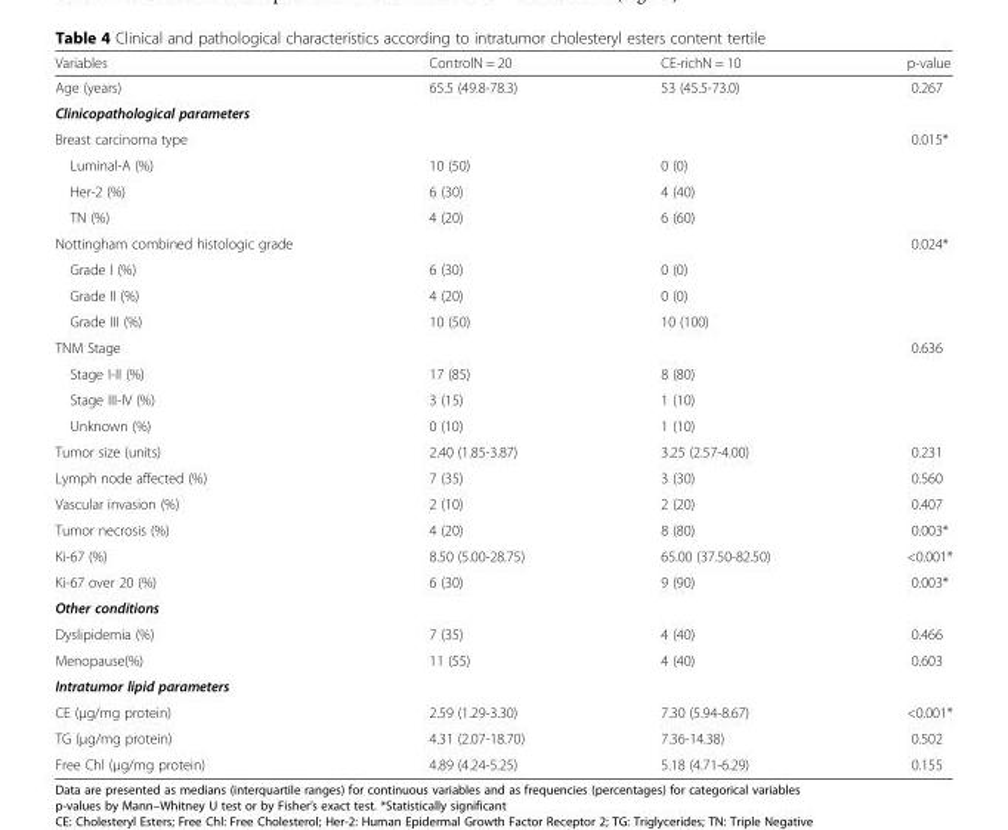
<table><thead><tr><td>Variables</td><td>ControlN = 20</td><td>CE-richN = 10</td><td>p-value</td></tr></thead><tbody><tr><td>Age (years)</td><td>65.5 (49.8-78.3)</td><td>53 (45.5-73.0)</td><td>0.267</td></tr><tr><td colspan="4">Clinicopathological parameters</td></tr><tr><td>Breast carcinoma type</td><td></td><td></td><td>0.015*</td></tr><tr><td>Luminal-A (%)</td><td>10 (50)</td><td>0 (0)</td><td></td></tr><tr><td>Her-2 (%)</td><td>6 (30)</td><td>4 (40)</td><td></td></tr><tr><td>TN (%)</td><td>4 (20)</td><td>6 (60)</td><td></td></tr><tr><td>Nottingham combined histologic grade</td><td></td><td></td><td>0.024*</td></tr><tr><td>Grade I (%)</td><td>6 (30)</td><td>0 (0)</td><td></td></tr><tr><td>Grade II (%)</td><td>4 (20)</td><td>0 (0)</td><td></td></tr><tr><td>Grade III (%)</td><td>10 (50)</td><td>10 (100)</td><td></td></tr><tr><td>TNM Stage</td><td></td><td></td><td>0.636</td></tr><tr><td>Stage I-II (%)</td><td>17 (85)</td><td>8 (80)</td><td></td></tr><tr><td>Stage III-IV (%)</td><td>3 (15)</td><td>1 (10)</td><td></td></tr><tr><td>Unknown (%)</td><td>0 (10)</td><td>1 (10)</td><td></td></tr><tr><td>Tumor size (units)</td><td>2.40 (1.85-3.87)</td><td>3.25 (2.57-4.00)</td><td>0.231</td></tr><tr><td>Lymph node affected (%)</td><td>7 (35)</td><td>3 (30)</td><td>0.560</td></tr><tr><td>Vascular invasion (%)</td><td>2 (10)</td><td>2 (20)</td><td>0.407</td></tr><tr><td>Tumor necrosis (%)</td><td>4 (20)</td><td>8 (80)</td><td>0.003*</td></tr><tr><td>Ki-67 (%)</td><td>8.50 (5.00-28.75)</td><td>65.00 (37.50-82.50)</td><td>&lt;0.001*</td></tr><tr><td>Ki-67 over 20 (%)</td><td>6 (30)</td><td>9 (90)</td><td>0.003*</td></tr><tr><td colspan="4">Other conditions</td></tr><tr><td>Dyslipidemia (%)</td><td>7 (35)</td><td>4 (40)</td><td>0.466</td></tr><tr><td>Menopause(%)</td><td>11 (55)</td><td>4 (40)</td><td>0.603</td></tr><tr><td colspan="4">Intratumor lipid parameters</td></tr><tr><td>CE (μg/mg protein)</td><td>2.59 (1.29-3.30)</td><td>7.30 (5.94-8.67)</td><td>&lt;0.001*</td></tr><tr><td>TG (μg/mg protein)</td><td>4.31 (2.07-18.70)</td><td>7.36-14.38)</td><td>0.502</td></tr><tr><td>Free Chl (μg/mg protein)</td><td>4.89 (4.24-5.25)</td><td>5.18 (4.71-6.29)</td><td>0.155</td></tr></tbody></table>